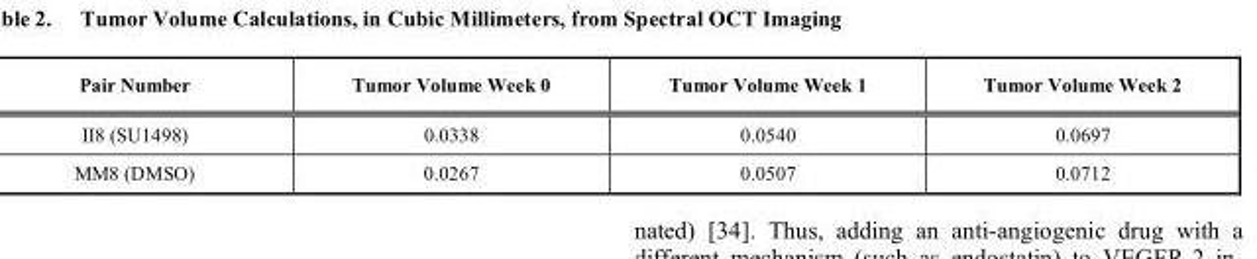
<table><thead><tr><td>Pair Number</td><td>Tumor Volume Week 0</td><td>Tumor Volume Week 1</td><td>Tumor Volume Week 2</td></tr></thead><tbody><tr><td>II8 (SU1498)</td><td>0.0338</td><td>0.0540</td><td>0.0697</td></tr><tr><td>MM8 (DMSO)</td><td>0.0267</td><td>0.0507</td><td>0.0712</td></tr></tbody></table>